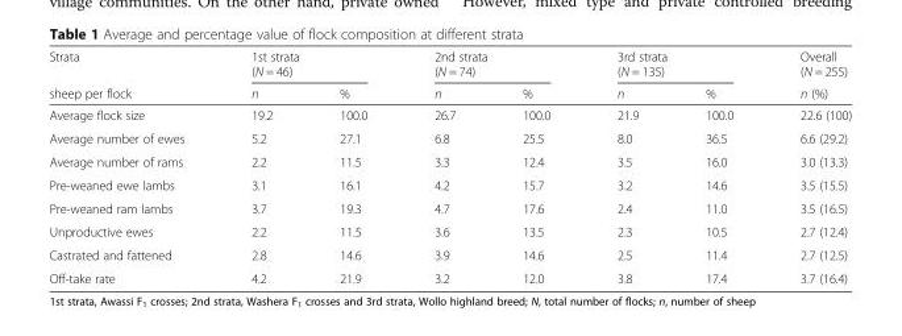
<table><thead><tr><td rowspan="2">Strata sheep per flock</td><td colspan="2">1st strata (N = 46)</td><td colspan="2">2nd strata (N = 74)</td><td colspan="2">3rd strata (N = 135)</td><td rowspan="2">Overall (N = 255) n (%)</td></tr><tr><td>n</td><td>%</td><td>n</td><td>%</td><td>n</td><td>%</td></tr></thead><tbody><tr><td>Average flock size</td><td>19.2</td><td>100.0</td><td>26.7</td><td>100.0</td><td>21.9</td><td>100.0</td><td>22.6 (100)</td></tr><tr><td>Average number of ewes</td><td>5.2</td><td>27.1</td><td>6.8</td><td>25.5</td><td>8.0</td><td>36.5</td><td>6.6 (29.2)</td></tr><tr><td>Average number of rams</td><td>2.2</td><td>11.5</td><td>3.3</td><td>12.4</td><td>3.5</td><td>16.0</td><td>3.0 (13.3)</td></tr><tr><td>Pre-weaned ewe lambs</td><td>3.1</td><td>16.1</td><td>4.2</td><td>15.7</td><td>3.2</td><td>14.6</td><td>3.5 (15.5)</td></tr><tr><td>Pre-weaned ram lambs</td><td>3.7</td><td>19.3</td><td>4.7</td><td>17.6</td><td>2.4</td><td>11.0</td><td>3.5 (16.5)</td></tr><tr><td>Unproductive ewes</td><td>2.2</td><td>11.5</td><td>3.6</td><td>13.5</td><td>2.3</td><td>10.5</td><td>2.7 (12.4)</td></tr><tr><td>Castrated and fattened</td><td>2.8</td><td>14.6</td><td>3.9</td><td>14.6</td><td>2.5</td><td>11.4</td><td>2.7 (12.5)</td></tr><tr><td>Off-take rate</td><td>4.2</td><td>21.9</td><td>3.2</td><td>12.0</td><td>3.8</td><td>17.4</td><td>3.7 (16.4)</td></tr></tbody></table>